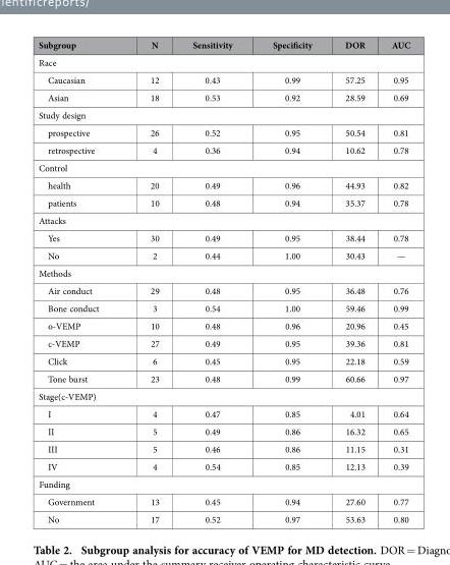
<table><thead><tr><td>Subgroup</td><td>N</td><td>Sensitivity</td><td>Specificity</td><td>DOR</td><td>AUC</td></tr></thead><tbody><tr><td colspan="6">Race</td></tr><tr><td>Caucasian</td><td>12</td><td>0.43</td><td>0.99</td><td>57.25</td><td>0.95</td></tr><tr><td>Asian</td><td>18</td><td>0.53</td><td>0.92</td><td>28.59</td><td>0.69</td></tr><tr><td colspan="6">Study design</td></tr><tr><td>prospective</td><td>26</td><td>0.52</td><td>0.95</td><td>50.54</td><td>0.81</td></tr><tr><td>retrospective</td><td>4</td><td>0.36</td><td>0.94</td><td>10.62</td><td>0.78</td></tr><tr><td colspan="6">Control</td></tr><tr><td>health</td><td>20</td><td>0.49</td><td>0.96</td><td>44.93</td><td>0.82</td></tr><tr><td>patients</td><td>10</td><td>0.48</td><td>0.94</td><td>35.37</td><td>0.78</td></tr><tr><td colspan="6">Attacks</td></tr><tr><td>Yes</td><td>30</td><td>0.49</td><td>0.95</td><td>38.44</td><td>0.78</td></tr><tr><td>No</td><td>2</td><td>0.44</td><td>1.00</td><td>30.43</td><td>—</td></tr><tr><td colspan="6">Methods</td></tr><tr><td>Air conduct</td><td>29</td><td>0.48</td><td>0.95</td><td>36.48</td><td>0.76</td></tr><tr><td>Bone conduct</td><td>3</td><td>0.54</td><td>1.00</td><td>59.46</td><td>0.99</td></tr><tr><td>o-VEMP</td><td>10</td><td>0.48</td><td>0.96</td><td>20.96</td><td>0.45</td></tr><tr><td>c-VEMP</td><td>27</td><td>0.49</td><td>0.95</td><td>39.36</td><td>0.81</td></tr><tr><td>Click</td><td>6</td><td>0.45</td><td>0.95</td><td>22.18</td><td>0.59</td></tr><tr><td>Tone burst</td><td>23</td><td>0.48</td><td>0.99</td><td>60.66</td><td>0.97</td></tr><tr><td colspan="6">Stage(c-VEMP)</td></tr><tr><td>I</td><td>4</td><td>0.47</td><td>0.85</td><td>4.01</td><td>0.64</td></tr><tr><td>II</td><td>5</td><td>0.49</td><td>0.86</td><td>16.32</td><td>0.65</td></tr><tr><td>III</td><td>5</td><td>0.46</td><td>0.86</td><td>11.15</td><td>0.31</td></tr><tr><td>IV</td><td>4</td><td>0.54</td><td>0.85</td><td>12.13</td><td>0.39</td></tr><tr><td colspan="6">Funding</td></tr><tr><td>Government</td><td>13</td><td>0.45</td><td>0.94</td><td>27.60</td><td>0.77</td></tr><tr><td>No</td><td>17</td><td>0.52</td><td>0.97</td><td>53.63</td><td>0.80</td></tr></tbody></table>